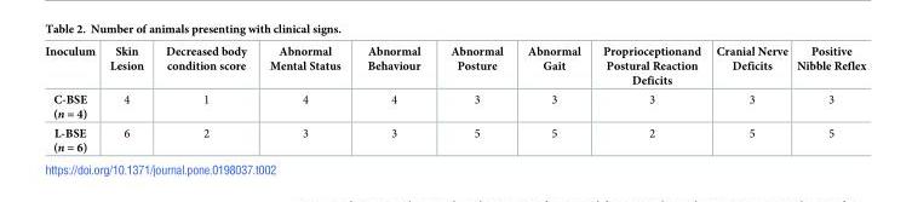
<table><thead><tr><td>Inoculum</td><td>Skin Lesion</td><td>Decreased body condition score</td><td>Abnormal Mental Status</td><td>Abnormal Behaviour</td><td>Abnormal Posture</td><td>Abnormal Gait</td><td>Proprioceptionand Postural Reaction Deficits</td><td>Cranial Nerve Deficits</td><td>Positive Nibble Reflex</td></tr></thead><tbody><tr><td>C-BSE (n = 4)</td><td>4</td><td>1</td><td>4</td><td>4</td><td>3</td><td>3</td><td>3</td><td>3</td><td>3</td></tr><tr><td>L-BSE (n = 6)</td><td>6</td><td>2</td><td>3</td><td>3</td><td>5</td><td>5</td><td>2</td><td>5</td><td>5</td></tr></tbody></table>